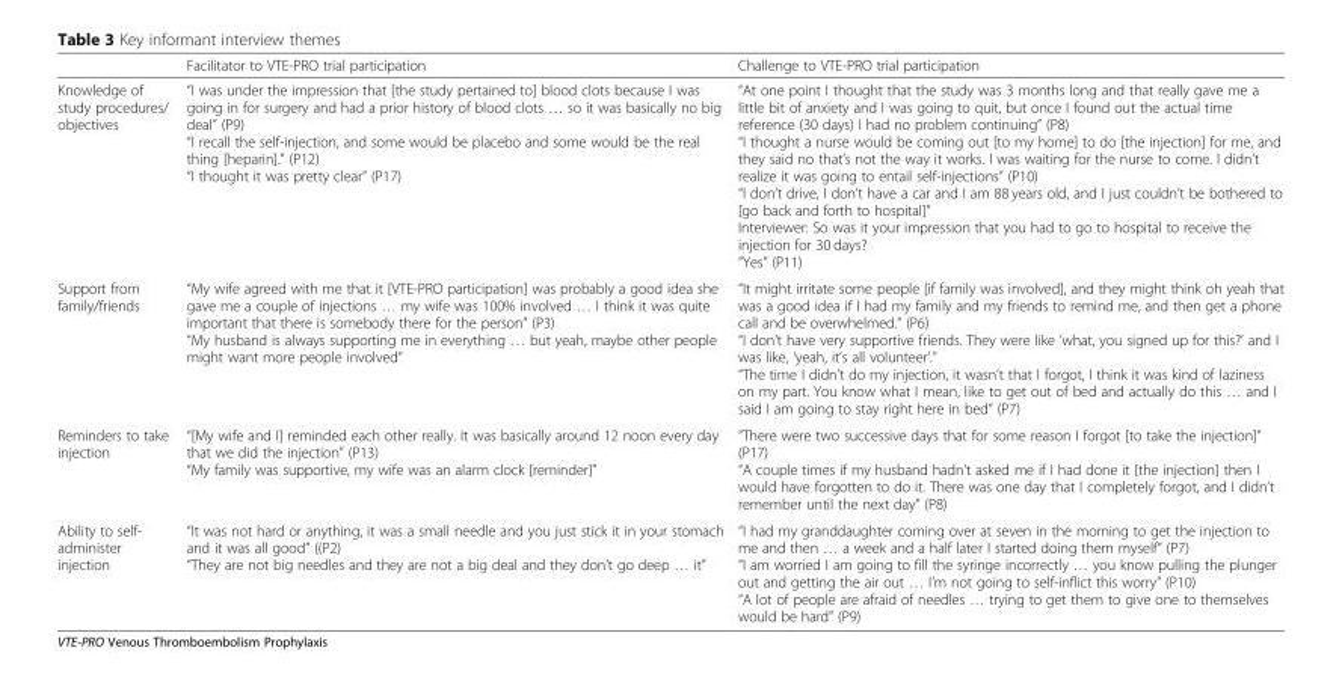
<table><thead><tr><td></td><td>Facilitator to VTE-PRO trial participation</td><td>Challenge to VTE-PRO trial participation</td></tr></thead><tbody><tr><td>Knowledge of study procedures/ objectives</td><td>“I was under the impression that [the study pertained to] blood clots because I was going in for surgery and had a prior history of blood clots … so it was basically no big deal” (P9) “I recall the self-injection, and some would be placebo and some would be the real thing [heparin].” (P12) “I thought it was pretty clear” (P17)</td><td>“At one point I thought that the study was 3 months long and that really gave me a little bit of anxiety and I was going to quit, but once I found out the actual time reference (30 days) I had no problem continuing” (P8) “I thought a nurse would be coming out [to my home] to do [the injection] for me, and they said no that’s not the way it works. I was waiting for the nurse to come. I didn’t realize it was going to entail self-injections” (P10) “I don’t drive, I don’t have a car and I am 88 years old, and I just couldn’t be bothered to [go back and forth to hospital]” Interviewer: So was it your impression that you had to go to hospital to receive the injection for 30 days? “Yes” (P11)</td></tr><tr><td>Support from family/friends</td><td>“My wife agreed with me that it [VTE-PRO participation] was probably a good idea she gave me a couple of injections … my wife was 100% involved … I think it was quite important that there is somebody there for the person” (P3) “My husband is always supporting me in everything … but yeah, maybe other people might want more people involved”</td><td>“It might irritate some people [if family was involved], and they might think oh yeah that was a good idea if I had my family and my friends to remind me, and then get a phone call and be overwhelmed.” (P6) “I don’t have very supportive friends. They were like ‘what, you signed up for this?’ and I was like, ‘yeah, it’s all volunteer’.” “The time I didn’t do my injection, it wasn’t that I forgot, I think it was kind of laziness on my part. You know what I mean, like to get out of bed and actually do this … and I said I am going to stay right here in bed” (P7)</td></tr><tr><td>Reminders to take injection</td><td>“[My wife and I] reminded each other really. It was basically around 12 noon every day that we did the injection” (P13) “My family was supportive, my wife was an alarm clock [reminder]”</td><td>“There were two successive days that for some reason I forgot [to take the injection]” (P17) “A couple times if my husband hadn’t asked me if I had done it [the injection] then I would have forgotten to do it. There was one day that I completely forgot, and I didn’t remember until the next day” (P8)</td></tr><tr><td>Ability to self- administer injection</td><td>“It was not hard or anything, it was a small needle and you just stick it in your stomach and it was all good” ((P2) “They are not big needles and they are not a big deal and they don’t go deep … it”</td><td>“I had my granddaughter coming over at seven in the morning to get the injection to me and then … a week and a half later I started doing them myself” (P7) “I am worried I am going to fill the syringe incorrectly … you know pulling the plunger out and getting the air out … I’m not going to self-inflict this worry” (P10) “A lot of people are afraid of needles … trying to get them to give one to themselves would be hard” (P9)</td></tr></tbody></table>